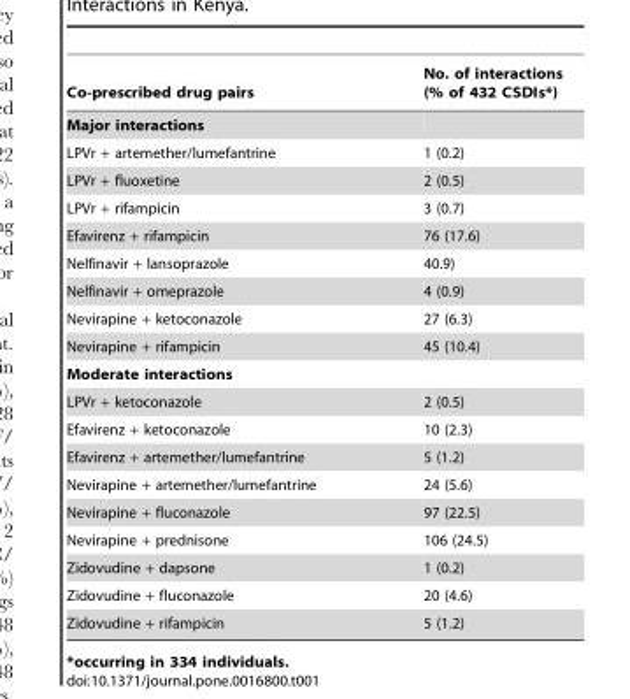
<table><thead><tr><td>Co-prescribed drug pairs</td><td>No. of interactions (% of 432 CSDIs*)</td></tr></thead><tbody><tr><td colspan="2">Major interactions</td></tr><tr><td>LPVr + artemether/lumefantrine</td><td>1 (0.2)</td></tr><tr><td>LPVr + fluoxetine</td><td>2 (0.5)</td></tr><tr><td>LPVr + rifampicin</td><td>3 (0.7)</td></tr><tr><td>Efavirenz + rifampicin</td><td>76 (17.6)</td></tr><tr><td>Nelfinavir + lansoprazole</td><td>40.9)</td></tr><tr><td>Nelfinavir + omeprazole</td><td>4 (0.9)</td></tr><tr><td>Nevirapine + ketoconazole</td><td>27 (6.3)</td></tr><tr><td>Nevirapine + rifampicin</td><td>45 (10.4)</td></tr><tr><td colspan="2">Moderate interactions</td></tr><tr><td>LPVr + ketoconazole</td><td>2 (0.5)</td></tr><tr><td>Efavirenz + ketoconazole</td><td>10 (2.3)</td></tr><tr><td>Efavirenz + artemether/lumefantrine</td><td>5 (1.2)</td></tr><tr><td>Nevirapine + artemether/lumefantrine</td><td>24 (5.6)</td></tr><tr><td>Nevirapine + fluconazole</td><td>97 (22.5)</td></tr><tr><td>Nevirapine + prednisone</td><td>106 (24.5)</td></tr><tr><td>Zidovudine + dapsone</td><td>1 (0.2)</td></tr><tr><td>Zidovudine + fluconazole</td><td>20 (4.6)</td></tr><tr><td>Zidovudine + rifampicin</td><td>5 (1.2)</td></tr></tbody></table>